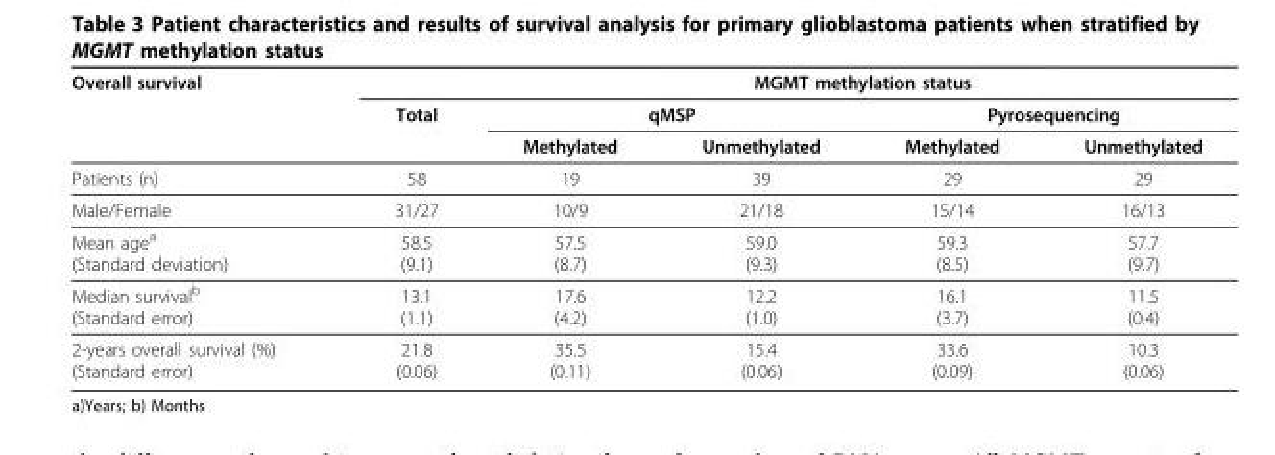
<table><thead><tr><td rowspan="3">Overall survival</td><td rowspan="3">Total</td><td colspan="4">MGMT methylation status</td></tr><tr><td colspan="2">qMSP</td><td colspan="2">Pyrosequencing</td></tr><tr><td>Methylated</td><td>Unmethylated</td><td>Methylated</td><td>Unmethylated</td></tr></thead><tbody><tr><td>Patients (n)</td><td>58</td><td>19</td><td>39</td><td>29</td><td>29</td></tr><tr><td>Male/Female</td><td>31/27</td><td>10/9</td><td>21/18</td><td>15/14</td><td>16/13</td></tr><tr><td>Mean age<sup>a</sup> (Standard deviation)</td><td>58.5 (9.1)</td><td>57.5 (8.7)</td><td>59.0 (9.3)</td><td>59.3 (8.5)</td><td>57.7 (9.7)</td></tr><tr><td>Median survival<sup>b</sup> (Standard error)</td><td>13.1 (1.1)</td><td>17.6 (4.2)</td><td>12.2 (1.0)</td><td>16.1 (3.7)</td><td>11.5 (0.4)</td></tr><tr><td>2-years overall survival (%) (Standard error)</td><td>21.8 (0.06)</td><td>35.5 (0.11)</td><td>15.4 (0.06)</td><td>33.6 (0.09)</td><td>10.3 (0.06)</td></tr></tbody></table>